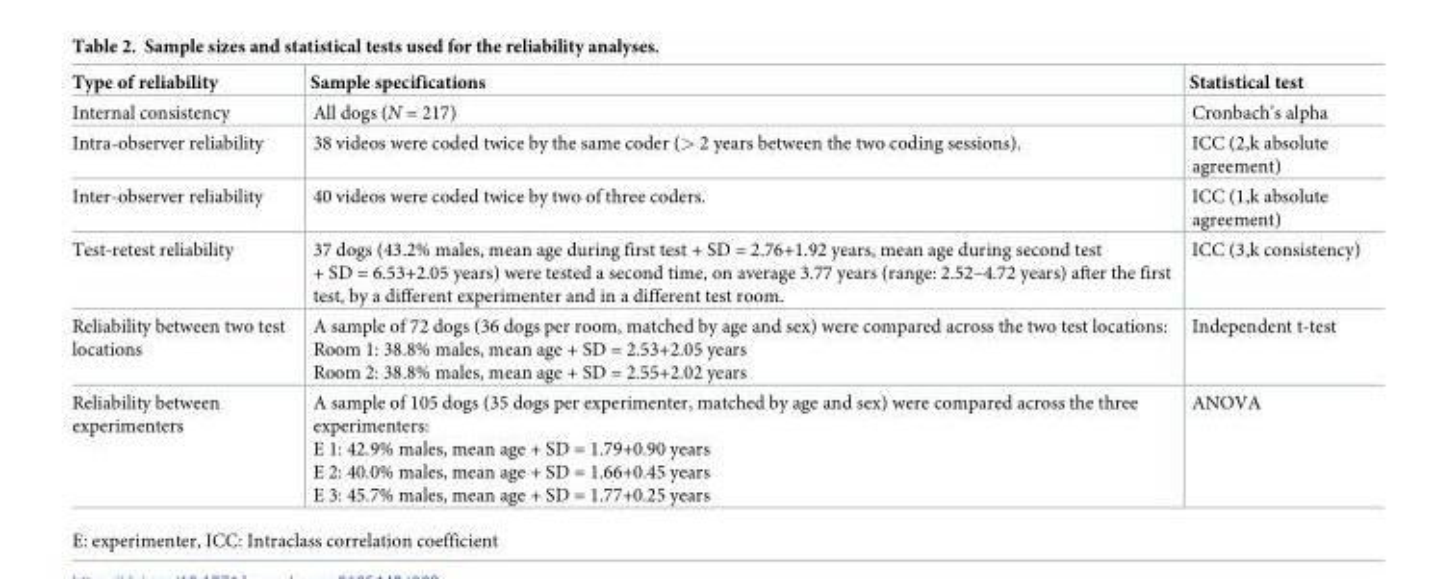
<table><thead><tr><td>Type of reliability</td><td>Sample specifications</td><td>Statistical test</td></tr></thead><tbody><tr><td>Internal consistency</td><td>All dogs (N = 217)</td><td>Cronbach’s alpha</td></tr><tr><td>Intra-observer reliability</td><td>38 videos were coded twice by the same coder (&gt; 2 years between the two coding sessions).</td><td>ICC (2,k absolute agreement)</td></tr><tr><td>Inter-observer reliability</td><td>40 videos were coded twice by two of three coders.</td><td>ICC (1,k absolute agreement)</td></tr><tr><td>Test-retest reliability</td><td>37 dogs (43.2% males, mean age during first test + SD = 2.76+1.92 years, mean age during second test + SD = 6.53+2.05 years) were tested a second time, on average 3.77 years (range: 2.52–4.72 years) after the first test, by a different experimenter and in a different test room.</td><td>ICC (3,k consistency)</td></tr><tr><td>Reliability between two test locations</td><td>A sample of 72 dogs (36 dogs per room, matched by age and sex) were compared across the two test locations: Room 1: 38.8% males, mean age + SD = 2.53+2.05 years Room 2: 38.8% males, mean age + SD = 2.55+2.02 years</td><td>Independent t-test</td></tr><tr><td>Reliability between experimenters</td><td>A sample of 105 dogs (35 dogs per experimenter, matched by age and sex) were compared across the three experimenters: E 1: 42.9% males, mean age + SD = 1.79+0.90 years E 2: 40.0% males, mean age + SD = 1.66+0.45 years E 3: 45.7% males, mean age + SD = 1.77+0.25 years</td><td>ANOVA</td></tr></tbody></table>